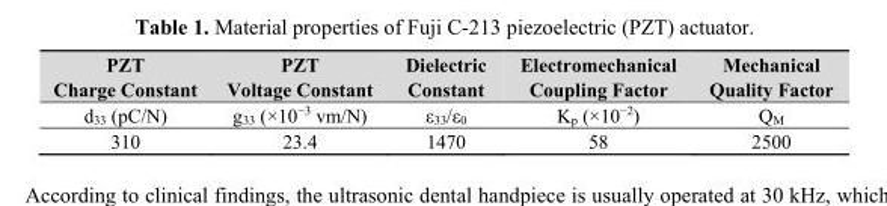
<table><thead><tr><td>PZT Charge Constant</td><td>PZT Voltage Constant</td><td>Dielectric Constant</td><td>Electromechanical Coupling Factor</td><td>Mechanical Quality Factor</td></tr></thead><tbody><tr><td>d<sub>33</sub> (pC/N)</td><td>g<sub>33</sub> (×10<sup>−3</sup> vm/N)</td><td>ε<sub>33</sub>/ε<sub>0</sub></td><td>K<sub>p</sub> (×10<sup>−2</sup>)</td><td>Q<sub>M</sub></td></tr><tr><td>310</td><td>23.4</td><td>1470</td><td>58</td><td>2500</td></tr></tbody></table>